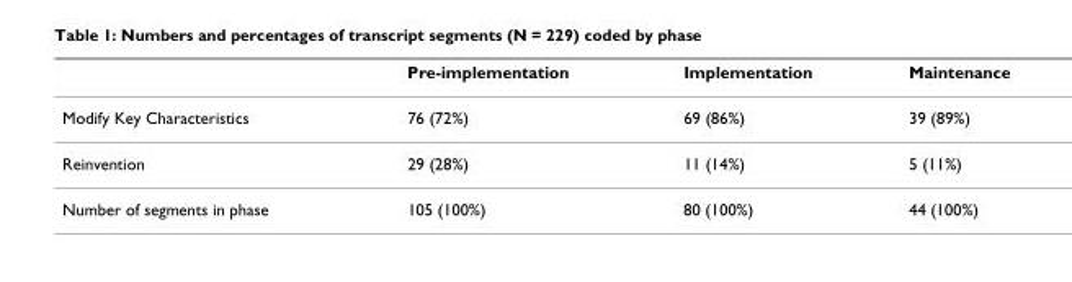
<table><thead><tr><td></td><td>Pre-implementation</td><td>Implementation</td><td>Maintenance</td></tr></thead><tbody><tr><td>Modify Key Characteristics</td><td>76 (72%)</td><td>69 (86%)</td><td>39 (89%)</td></tr><tr><td>Reinvention</td><td>29 (28%)</td><td>11 (14%)</td><td>5 (11%)</td></tr><tr><td>Number of segments in phase</td><td>105 (100%)</td><td>80 (100%)</td><td>44 (100%)</td></tr></tbody></table>